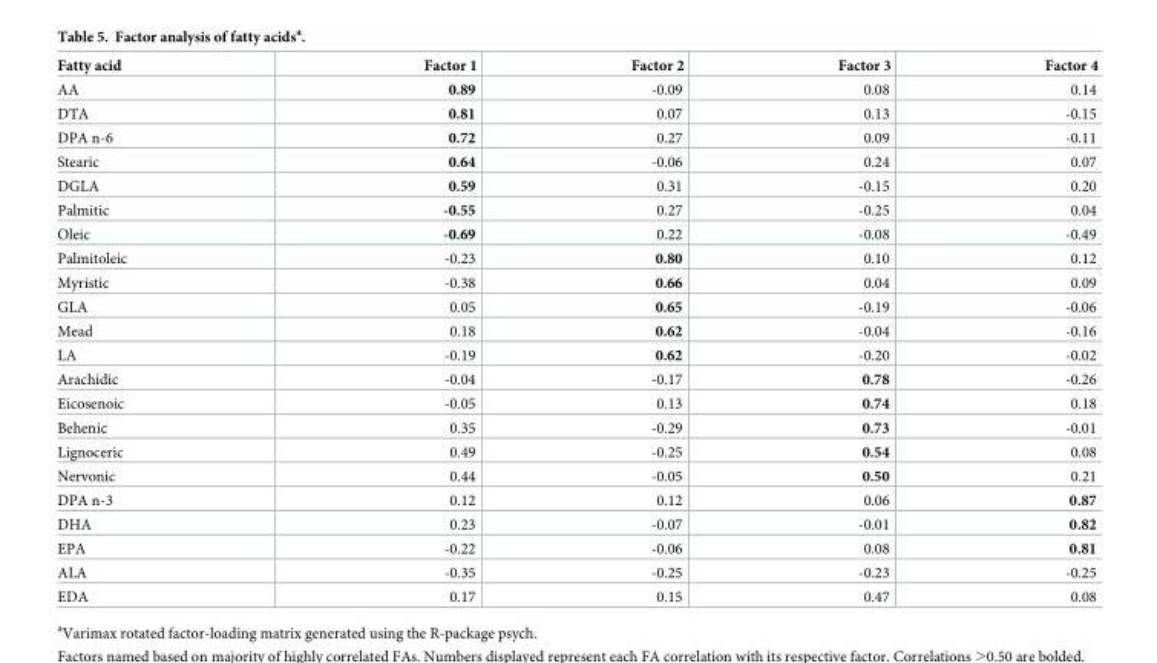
<table><thead><tr><td>Fatty acid</td><td>Factor 1</td><td>Factor 2</td><td>Factor 3</td><td>Factor 4</td></tr></thead><tbody><tr><td>AA</td><td>0.89</td><td>-0.09</td><td>0.08</td><td>0.14</td></tr><tr><td>DTA</td><td>0.81</td><td>0.07</td><td>0.13</td><td>-0.15</td></tr><tr><td>DPA n-6</td><td>0.72</td><td>0.27</td><td>0.09</td><td>-0.11</td></tr><tr><td>Stearic</td><td>0.64</td><td>-0.06</td><td>0.24</td><td>0.07</td></tr><tr><td>DGLA</td><td>0.59</td><td>0.31</td><td>-0.15</td><td>0.20</td></tr><tr><td>Palmitic</td><td>-0.55</td><td>0.27</td><td>-0.25</td><td>0.04</td></tr><tr><td>Oleic</td><td>-0.69</td><td>0.22</td><td>-0.08</td><td>-0.49</td></tr><tr><td>Palmitoleic</td><td>-0.23</td><td>0.80</td><td>0.10</td><td>0.12</td></tr><tr><td>Myristic</td><td>-0.38</td><td>0.66</td><td>0.04</td><td>0.09</td></tr><tr><td>GLA</td><td>0.05</td><td>0.65</td><td>-0.19</td><td>-0.06</td></tr><tr><td>Mead</td><td>0.18</td><td>0.62</td><td>-0.04</td><td>-0.16</td></tr><tr><td>LA</td><td>-0.19</td><td>0.62</td><td>-0.20</td><td>-0.02</td></tr><tr><td>Arachidic</td><td>-0.04</td><td>-0.17</td><td>0.78</td><td>-0.26</td></tr><tr><td>Eicosenoic</td><td>-0.05</td><td>0.13</td><td>0.74</td><td>0.18</td></tr><tr><td>Behenic</td><td>0.35</td><td>-0.29</td><td>0.73</td><td>-0.01</td></tr><tr><td>Lignoceric</td><td>0.49</td><td>-0.25</td><td>0.54</td><td>0.08</td></tr><tr><td>Nervonic</td><td>0.44</td><td>-0.05</td><td>0.50</td><td>0.21</td></tr><tr><td>DPA n-3</td><td>0.12</td><td>0.12</td><td>0.06</td><td>0.87</td></tr><tr><td>DHA</td><td>0.23</td><td>-0.07</td><td>-0.01</td><td>0.82</td></tr><tr><td>EPA</td><td>-0.22</td><td>-0.06</td><td>0.08</td><td>0.81</td></tr><tr><td>ALA</td><td>-0.35</td><td>-0.25</td><td>-0.23</td><td>-0.25</td></tr><tr><td>EDA</td><td>0.17</td><td>0.15</td><td>0.47</td><td>0.08</td></tr></tbody></table>